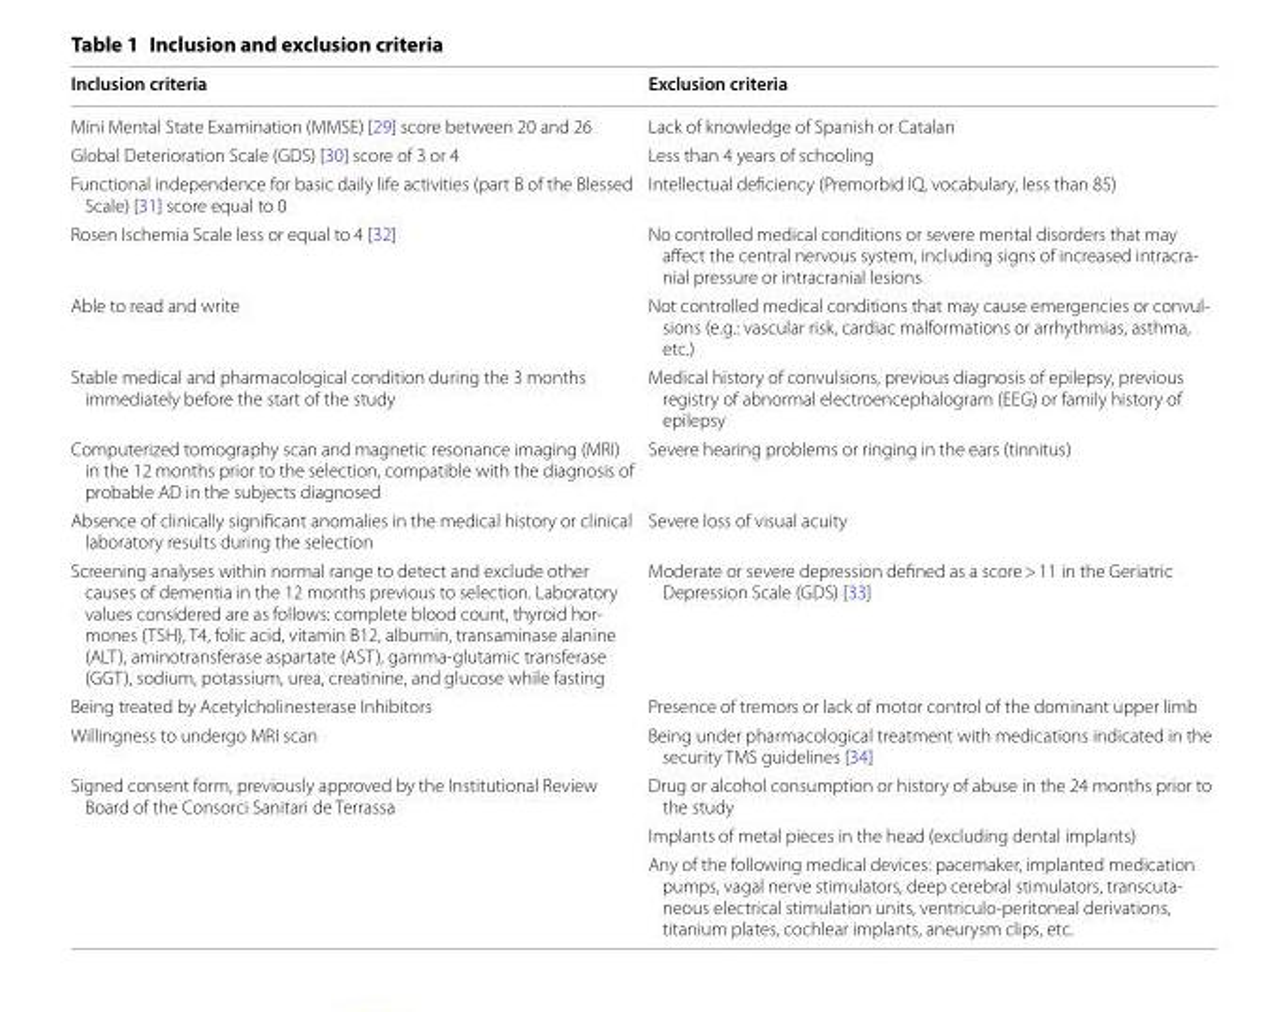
<table><thead><tr><td>Inclusion criteria</td><td>Exclusion criteria</td></tr></thead><tbody><tr><td>Mini Mental State Examination (MMSE) [29] score between 20 and 26</td><td>Lack of knowledge of Spanish or Catalan</td></tr><tr><td>Global Deterioration Scale (GDS) [30] score of 3 or 4</td><td>Less than 4 years of schooling</td></tr><tr><td>Functional independence for basic daily life activities (part B of the Blessed Scale) [31] score equal to 0</td><td>Intellectual deficiency (Premorbid IQ, vocabulary, less than 85)</td></tr><tr><td>Rosen Ischemia Scale less or equal to 4 [32]</td><td>No controlled medical conditions or severe mental disorders that may affect the central nervous system, including signs of increased intracra‑ nial pressure or intracranial lesions</td></tr><tr><td>Able to read and write</td><td>Not controlled medical conditions that may cause emergencies or convul‑ sions (e.g.: vascular risk, cardiac malformations or arrhythmias, asthma, etc.)</td></tr><tr><td>Stable medical and pharmacological condition during the 3 months immediately before the start of the study</td><td>Medical history of convulsions, previous diagnosis of epilepsy, previous registry of abnormal electroencephalogram (EEG) or family history of epilepsy</td></tr><tr><td>Computerized tomography scan and magnetic resonance imaging (MRI) in the 12 months prior to the selection, compatible with the diagnosis of probable AD in the subjects diagnosed</td><td>Severe hearing problems or ringing in the ears (tinnitus)</td></tr><tr><td>Absence of clinically significant anomalies in the medical history or clinical laboratory results during the selection</td><td>Severe loss of visual acuity</td></tr><tr><td>Screening analyses within normal range to detect and exclude other causes of dementia in the 12 months previous to selection. Laboratory values considered are as follows: complete blood count, thyroid hor‑ mones (TSH), T4, folic acid, vitamin B12, albumin, transaminase alanine (ALT), aminotransferase aspartate (AST), gamma‑glutamic transferase (GGT), sodium, potassium, urea, creatinine, and glucose while fasting</td><td>Moderate or severe depression defined as a score &gt; 11 in the Geriatric Depression Scale (GDS) [33]</td></tr><tr><td>Being treated by Acetylcholinesterase Inhibitors</td><td>Presence of tremors or lack of motor control of the dominant upper limb</td></tr><tr><td>Willingness to undergo MRI scan</td><td>Being under pharmacological treatment with medications indicated in the security TMS guidelines [34]</td></tr><tr><td rowspan="3">Signed consent form, previously approved by the Institutional Review Board of the Consorci Sanitari de Terrassa</td><td>Drug or alcohol consumption or history of abuse in the 24 months prior to the study</td></tr><tr><td>Implants of metal pieces in the head (excluding dental implants)</td></tr><tr><td>Any of the following medical devices: pacemaker, implanted medication pumps, vagal nerve stimulators, deep cerebral stimulators, transcuta‑ neous electrical stimulation units, ventriculo‑peritoneal derivations, titanium plates, cochlear implants, aneurysm clips, etc.</td></tr></tbody></table>